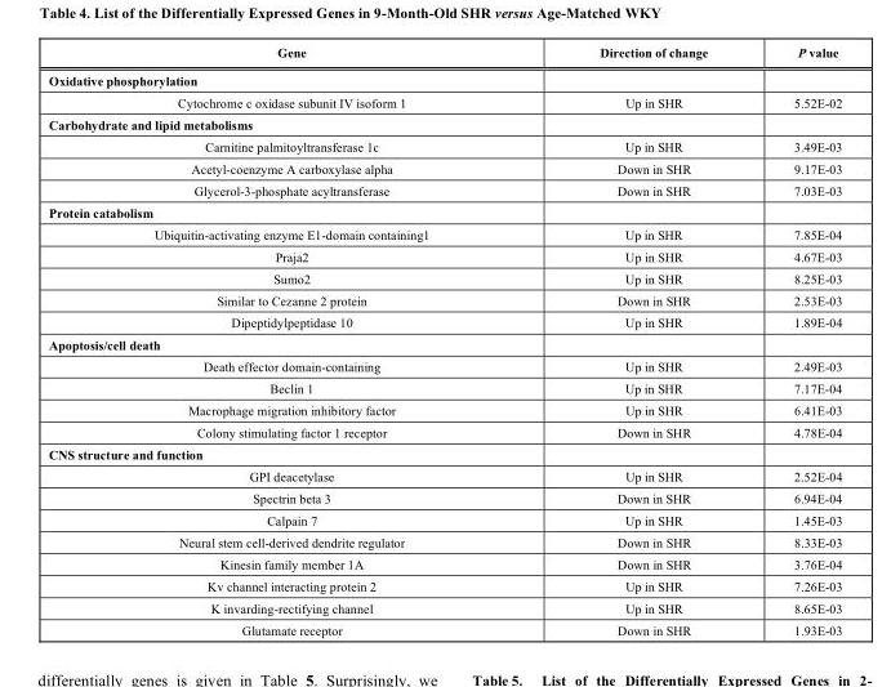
<table><thead><tr><td>Gene</td><td>Direction of change</td><td>P value</td></tr></thead><tbody><tr><td colspan="3">Oxidative phosphorylation</td></tr><tr><td>Cytochrome c oxidase subunit IV isoform 1</td><td>Up in SHR</td><td>5.52E-02</td></tr><tr><td colspan="3">Carbohydrate and lipid metabolisms</td></tr><tr><td>Carnitine palmitoyltransferase 1c</td><td>Up in SHR</td><td>3.49E-03</td></tr><tr><td>Acetyl-coenzyme A carboxylase alpha</td><td>Down in SHR</td><td>9.17E-03</td></tr><tr><td>Glycerol-3-phosphate acyltransferase</td><td>Down in SHR</td><td>7.03E-03</td></tr><tr><td colspan="3">Protein catabolism</td></tr><tr><td>Ubiquitin-activating enzyme E1-domain containing1</td><td>Up in SHR</td><td>7.85E-04</td></tr><tr><td>Praja2</td><td>Up in SHR</td><td>4.67E-03</td></tr><tr><td>Sumo2</td><td>Up in SHR</td><td>8.25E-03</td></tr><tr><td>Similar to Cezanne 2 protein</td><td>Down in SHR</td><td>2.53E-03</td></tr><tr><td>Dipeptidylpeptidase 10</td><td>Up in SHR</td><td>1.89E-04</td></tr><tr><td colspan="3">Apoptosis/cell death</td></tr><tr><td>Death effector domain-containing</td><td>Up in SHR</td><td>2.49E-03</td></tr><tr><td>Beclin 1</td><td>Up in SHR</td><td>7.17E-04</td></tr><tr><td>Macrophage migration inhibitory factor</td><td>Up in SHR</td><td>6.41E-03</td></tr><tr><td>Colony stimulating factor 1 receptor</td><td>Down in SHR</td><td>4.78E-04</td></tr><tr><td colspan="3">CNS structure and function</td></tr><tr><td>GPI deacetylase</td><td>Up in SHR</td><td>2.52E-04</td></tr><tr><td>Spectrin beta 3</td><td>Down in SHR</td><td>6.94E-04</td></tr><tr><td>Calpain 7</td><td>Up in SHR</td><td>1.45E-03</td></tr><tr><td>Neural stem cell-derived dendrite regulator</td><td>Down in SHR</td><td>8.33E-03</td></tr><tr><td>Kinesin family member 1A</td><td>Down in SHR</td><td>3.76E-04</td></tr><tr><td>Kv channel interacting protein 2</td><td>Up in SHR</td><td>7.26E-03</td></tr><tr><td>K invarding-rectifying channel</td><td>Up in SHR</td><td>8.65E-03</td></tr><tr><td>Glutamate receptor</td><td>Down in SHR</td><td>1.93E-03</td></tr></tbody></table>